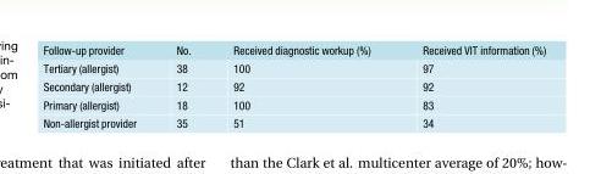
<table><thead><tr><td>Follow-up provider</td><td>No.</td><td>Received diagnostic workup (%)</td><td>Received VIT information (%)</td></tr></thead><tbody><tr><td>Tertiary (allergist)</td><td>38</td><td>100</td><td>97</td></tr><tr><td>Secondary (allergist)</td><td>12</td><td>92</td><td>92</td></tr><tr><td>Primary (allergist)</td><td>18</td><td>100</td><td>83</td></tr><tr><td>Non-allergist provider</td><td>35</td><td>51</td><td>34</td></tr></tbody></table>